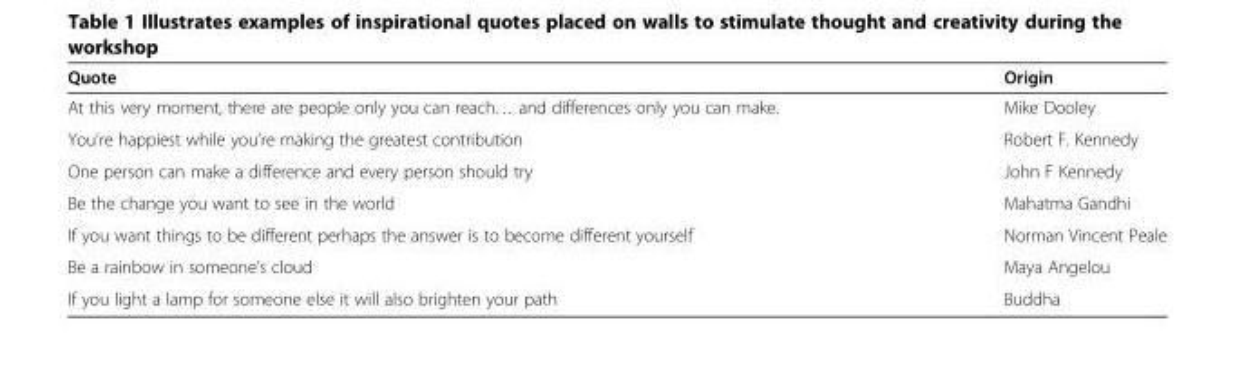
<table><thead><tr><td>Quote</td><td>Origin</td></tr></thead><tbody><tr><td>At this very moment, there are people only you can reach… and differences only you can make.</td><td>Mike Dooley</td></tr><tr><td>You’re happiest while you’re making the greatest contribution</td><td>Robert F. Kennedy</td></tr><tr><td>One person can make a difference and every person should try</td><td>John F Kennedy</td></tr><tr><td>Be the change you want to see in the world</td><td>Mahatma Gandhi</td></tr><tr><td>If you want things to be different perhaps the answer is to become different yourself</td><td>Norman Vincent Peale</td></tr><tr><td>Be a rainbow in someone’s cloud</td><td>Maya Angelou</td></tr><tr><td>If you light a lamp for someone else it will also brighten your path</td><td>Buddha</td></tr></tbody></table>